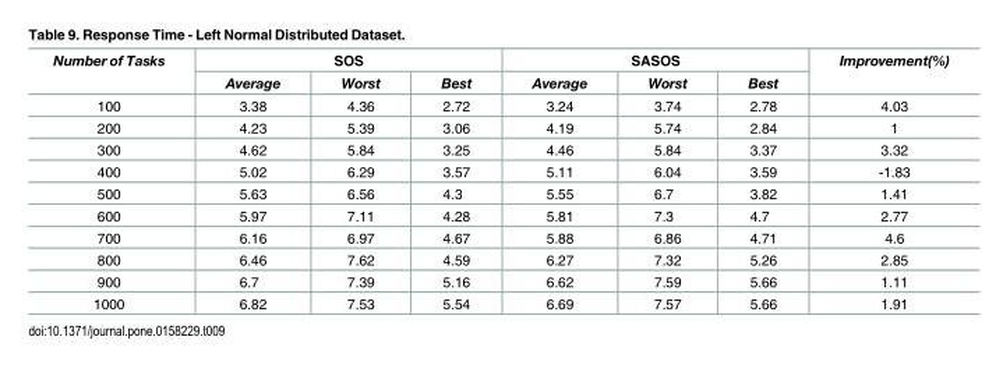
<table><thead><tr><td rowspan="2">Number of Tasks</td><td colspan="3">SOS</td><td colspan="3">SASOS</td><td rowspan="2">Improvement(%)</td></tr><tr><td>Average</td><td>Worst</td><td>Best</td><td>Average</td><td>Worst</td><td>Best</td></tr></thead><tbody><tr><td>100</td><td>3.38</td><td>4.36</td><td>2.72</td><td>3.24</td><td>3.74</td><td>2.78</td><td>4.03</td></tr><tr><td>200</td><td>4.23</td><td>5.39</td><td>3.06</td><td>4.19</td><td>5.74</td><td>2.84</td><td>1</td></tr><tr><td>300</td><td>4.62</td><td>5.84</td><td>3.25</td><td>4.46</td><td>5.84</td><td>3.37</td><td>3.32</td></tr><tr><td>400</td><td>5.02</td><td>6.29</td><td>3.57</td><td>5.11</td><td>6.04</td><td>3.59</td><td>-1.83</td></tr><tr><td>500</td><td>5.63</td><td>6.56</td><td>4.3</td><td>5.55</td><td>6.7</td><td>3.82</td><td>1.41</td></tr><tr><td>600</td><td>5.97</td><td>7.11</td><td>4.28</td><td>5.81</td><td>7.3</td><td>4.7</td><td>2.77</td></tr><tr><td>700</td><td>6.16</td><td>6.97</td><td>4.67</td><td>5.88</td><td>6.86</td><td>4.71</td><td>4.6</td></tr><tr><td>800</td><td>6.46</td><td>7.62</td><td>4.59</td><td>6.27</td><td>7.32</td><td>5.26</td><td>2.85</td></tr><tr><td>900</td><td>6.7</td><td>7.39</td><td>5.16</td><td>6.62</td><td>7.59</td><td>5.66</td><td>1.11</td></tr><tr><td>1000</td><td>6.82</td><td>7.53</td><td>5.54</td><td>6.69</td><td>7.57</td><td>5.66</td><td>1.91</td></tr></tbody></table>